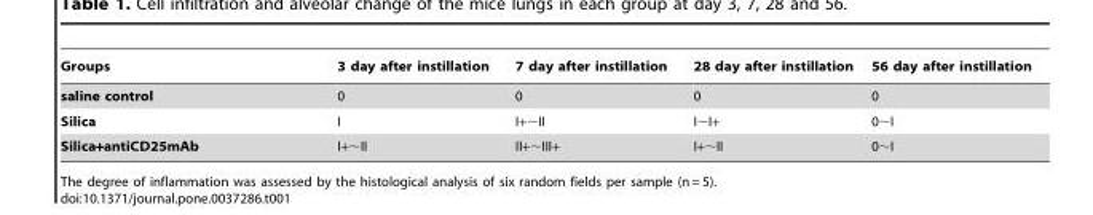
<table><thead><tr><td>Groups</td><td>3 day after instillation</td><td>7 day after instillation</td><td>28 day after instillation</td><td>56 day after instillation</td></tr></thead><tbody><tr><td>saline control</td><td>0</td><td>0</td><td>0</td><td>0</td></tr><tr><td>Silica</td><td>I</td><td>I+∼II</td><td>I∼I+</td><td>0∼I</td></tr><tr><td>Silica+antiCD25mAb</td><td>I+∼II</td><td>II+∼III+</td><td>I+∼II</td><td>0∼I</td></tr></tbody></table>